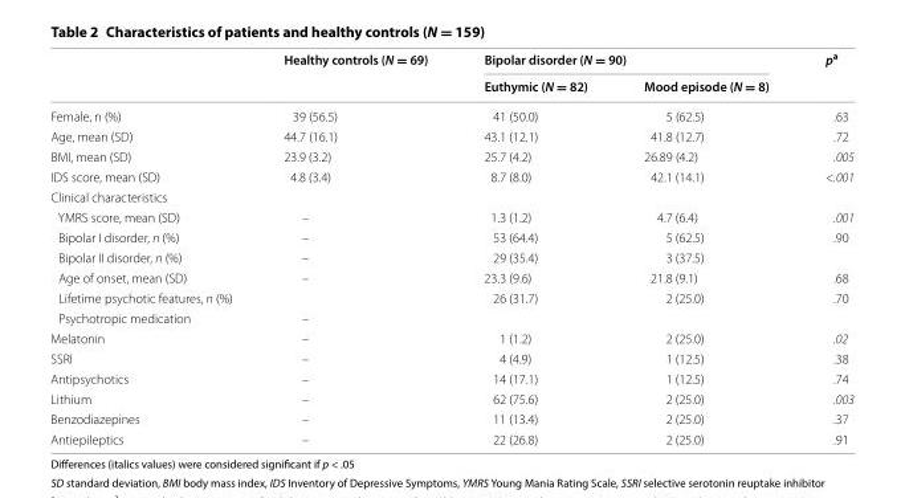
<table><thead><tr><td rowspan="2"></td><td rowspan="2">Healthy controls (N = 69)</td><td colspan="2">Bipolar disorder (N = 90)</td><td rowspan="2">p<sup>a</sup></td></tr><tr><td>Euthymic (N = 82)</td><td>Mood episode (N = 8)</td></tr></thead><tbody><tr><td>Female, n (%)</td><td>39 (56.5)</td><td>41 (50.0)</td><td>5 (62.5)</td><td>.63</td></tr><tr><td>Age, mean (SD)</td><td>44.7 (16.1)</td><td>43.1 (12.1)</td><td>41.8 (12.7)</td><td>.72</td></tr><tr><td>BMI, mean (SD)</td><td>23.9 (3.2)</td><td>25.7 (4.2)</td><td>26.89 (4.2)</td><td>.005</td></tr><tr><td>IDS score, mean (SD)</td><td>4.8 (3.4)</td><td>8.7 (8.0)</td><td>42.1 (14.1)</td><td>&lt;.001</td></tr><tr><td colspan="5">Clinical characteristics</td></tr><tr><td>YMRS score, mean (SD)</td><td>–</td><td>1.3 (1.2)</td><td>4.7 (6.4)</td><td>.001</td></tr><tr><td>Bipolar I disorder, n (%)</td><td>–</td><td>53 (64.4)</td><td>5 (62.5)</td><td>.90</td></tr><tr><td>Bipolar II disorder, n (%)</td><td>–</td><td>29 (35.4)</td><td>3 (37.5)</td><td></td></tr><tr><td>Age of onset, mean (SD)</td><td>–</td><td>23.3 (9.6)</td><td>21.8 (9.1)</td><td>.68</td></tr><tr><td>Lifetime psychotic features, n (%)</td><td></td><td>26 (31.7)</td><td>2 (25.0)</td><td>.70</td></tr><tr><td>Psychotropic medication</td><td>–</td><td></td><td></td><td></td></tr><tr><td>Melatonin</td><td>–</td><td>1 (1.2)</td><td>2 (25.0)</td><td>.02</td></tr><tr><td>SSRI</td><td>–</td><td>4 (4.9)</td><td>1 (12.5)</td><td>.38</td></tr><tr><td>Antipsychotics</td><td>–</td><td>14 (17.1)</td><td>1 (12.5)</td><td>.74</td></tr><tr><td>Lithium</td><td>–</td><td>62 (75.6)</td><td>2 (25.0)</td><td>.003</td></tr><tr><td>Benzodiazepines</td><td>–</td><td>11 (13.4)</td><td>2 (25.0)</td><td>.37</td></tr><tr><td>Antiepileptics</td><td>–</td><td>22 (26.8)</td><td>2 (25.0)</td><td>.91</td></tr></tbody></table>